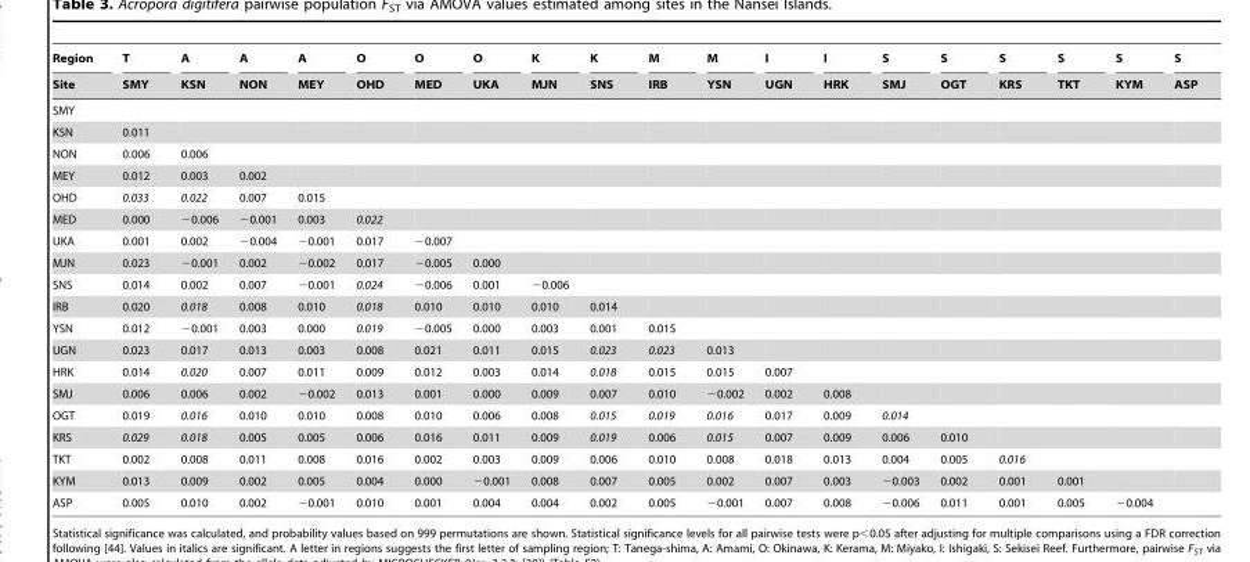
<table><thead><tr><td rowspan="2">Region Site</td><td rowspan="2">T SMY</td><td rowspan="2">A KSN</td><td rowspan="2">A NON</td><td rowspan="2">A MEY</td><td rowspan="2">O OHD</td><td rowspan="2">O MED</td><td rowspan="2">O UKA</td><td rowspan="2">K MJN</td><td rowspan="2">K SNS</td><td rowspan="2">M IRB</td><td rowspan="2">M YSN</td><td rowspan="2">I UGN</td><td rowspan="2">I HRK</td><td rowspan="2">S SMJ</td><td rowspan="2">S OGT</td><td rowspan="2">S KRS</td><td rowspan="2">S TKT</td><td rowspan="2">S KYM</td><td rowspan="2">S ASP</td></tr><tr></tr></thead><tbody><tr><td colspan="20">SMY</td></tr><tr><td>KSN</td><td>0.011</td><td></td><td></td><td></td><td></td><td></td><td></td><td></td><td></td><td></td><td></td><td></td><td></td><td></td><td></td><td></td><td></td><td></td><td></td></tr><tr><td>NON</td><td>0.006</td><td>0.006</td><td></td><td></td><td></td><td></td><td></td><td></td><td></td><td></td><td></td><td></td><td></td><td></td><td></td><td></td><td></td><td></td><td></td></tr><tr><td>MEY</td><td>0.012</td><td>0.003</td><td>0.002</td><td></td><td></td><td></td><td></td><td></td><td></td><td></td><td></td><td></td><td></td><td></td><td></td><td></td><td></td><td></td><td></td></tr><tr><td>OHD</td><td>0.033</td><td>0.022</td><td>0.007</td><td>0.015</td><td></td><td></td><td></td><td></td><td></td><td></td><td></td><td></td><td></td><td></td><td></td><td></td><td></td><td></td><td></td></tr><tr><td>MED</td><td>0.000</td><td>−0.006</td><td>−0.001</td><td>0.003</td><td>0.022</td><td></td><td></td><td></td><td></td><td></td><td></td><td></td><td></td><td></td><td></td><td></td><td></td><td></td><td></td></tr><tr><td>UKA</td><td>0.001</td><td>0.002</td><td>−0.004</td><td>−0.001</td><td>0.017</td><td>−0.007</td><td></td><td></td><td></td><td></td><td></td><td></td><td></td><td></td><td></td><td></td><td></td><td></td><td></td></tr><tr><td>MJN</td><td>0.023</td><td>−0.001</td><td>0.002</td><td>−0.002</td><td>0.017</td><td>−0.005</td><td>0.000</td><td></td><td></td><td></td><td></td><td></td><td></td><td></td><td></td><td></td><td></td><td></td><td></td></tr><tr><td>SNS</td><td>0.014</td><td>0.002</td><td>0.007</td><td>−0.001</td><td>0.024</td><td>−0.006</td><td>0.001</td><td>−0.006</td><td></td><td></td><td></td><td></td><td></td><td></td><td></td><td></td><td></td><td></td><td></td></tr><tr><td>IRB</td><td>0.020</td><td>0.018</td><td>0.008</td><td>0.010</td><td>0.018</td><td>0.010</td><td>0.010</td><td>0.010</td><td>0.014</td><td></td><td></td><td></td><td></td><td></td><td></td><td></td><td></td><td></td><td></td></tr><tr><td>YSN</td><td>0.012</td><td>−0.001</td><td>0.003</td><td>0.000</td><td>0.019</td><td>−0.005</td><td>0.000</td><td>0.003</td><td>0.001</td><td>0.015</td><td></td><td></td><td></td><td></td><td></td><td></td><td></td><td></td><td></td></tr><tr><td>UGN</td><td>0.023</td><td>0.017</td><td>0.013</td><td>0.003</td><td>0.008</td><td>0.021</td><td>0.011</td><td>0.015</td><td>0.023</td><td>0.023</td><td>0.013</td><td></td><td></td><td></td><td></td><td></td><td></td><td></td><td></td></tr><tr><td>HRK</td><td>0.014</td><td>0.020</td><td>0.007</td><td>0.011</td><td>0.009</td><td>0.012</td><td>0.003</td><td>0.014</td><td>0.018</td><td>0.015</td><td>0.015</td><td>0.007</td><td></td><td></td><td></td><td></td><td></td><td></td><td></td></tr><tr><td>SMJ</td><td>0.006</td><td>0.006</td><td>0.002</td><td>−0.002</td><td>0.013</td><td>0.001</td><td>0.000</td><td>0.009</td><td>0.007</td><td>0.010</td><td>−0.002</td><td>0.002</td><td>0.008</td><td></td><td></td><td></td><td></td><td></td><td></td></tr><tr><td>OGT</td><td>0.019</td><td>0.016</td><td>0.010</td><td>0.010</td><td>0.008</td><td>0.010</td><td>0.006</td><td>0.008</td><td>0.015</td><td>0.019</td><td>0.016</td><td>0.017</td><td>0.009</td><td>0.014</td><td></td><td></td><td></td><td></td><td></td></tr><tr><td>KRS</td><td>0.029</td><td>0.018</td><td>0.005</td><td>0.005</td><td>0.006</td><td>0.016</td><td>0.011</td><td>0.009</td><td>0.019</td><td>0.006</td><td>0.015</td><td>0.007</td><td>0.009</td><td>0.006</td><td>0.010</td><td></td><td></td><td></td><td></td></tr><tr><td>TKT</td><td>0.002</td><td>0.008</td><td>0.011</td><td>0.008</td><td>0.016</td><td>0.002</td><td>0.003</td><td>0.009</td><td>0.006</td><td>0.010</td><td>0.008</td><td>0.018</td><td>0.013</td><td>0.004</td><td>0.005</td><td>0.016</td><td></td><td></td><td></td></tr><tr><td>KYM</td><td>0.013</td><td>0.009</td><td>0.002</td><td>0.005</td><td>0.004</td><td>0.000</td><td>−0.001</td><td>0.008</td><td>0.007</td><td>0.005</td><td>0.002</td><td>0.007</td><td>0.003</td><td>−0.003</td><td>0.002</td><td>0.001</td><td>0.001</td><td></td><td></td></tr><tr><td>ASP</td><td>0.005</td><td>0.010</td><td>0.002</td><td>−0.001</td><td>0.010</td><td>0.001</td><td>0.004</td><td>0.004</td><td>0.002</td><td>0.005</td><td>−0.001</td><td>0.007</td><td>0.008</td><td>−0.006</td><td>0.011</td><td>0.001</td><td>0.005</td><td>−0.004</td><td></td></tr></tbody></table>